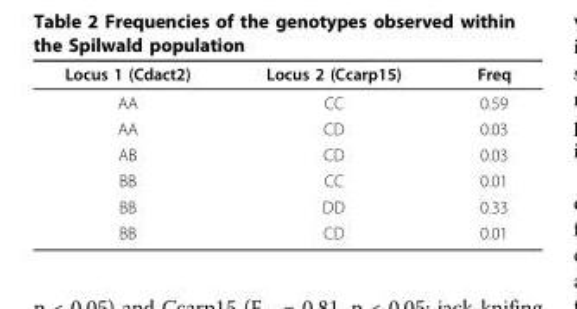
<table><thead><tr><td>Locus 1 (Cdact2)</td><td>Locus 2 (Ccarp15)</td><td>Freq</td></tr></thead><tbody><tr><td>AA</td><td>CC</td><td>0.59</td></tr><tr><td>AA</td><td>CD</td><td>0.03</td></tr><tr><td>AB</td><td>CD</td><td>0.03</td></tr><tr><td>BB</td><td>CC</td><td>0.01</td></tr><tr><td>BB</td><td>DD</td><td>0.33</td></tr><tr><td>BB</td><td>CD</td><td>0.01</td></tr></tbody></table>